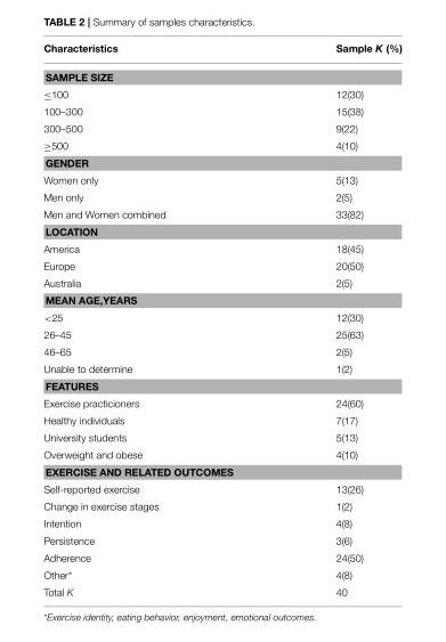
<table><thead><tr><td>Characteristics</td><td>Sample K (%)</td></tr></thead><tbody><tr><td colspan="2">SAMPLE SIZE</td></tr><tr><td>≤100</td><td>12(30)</td></tr><tr><td>100–300</td><td>15(38)</td></tr><tr><td>300–500</td><td>9(22)</td></tr><tr><td>≥500</td><td>4(10)</td></tr><tr><td colspan="2">GENDER</td></tr><tr><td>Women only</td><td>5(13)</td></tr><tr><td>Men only</td><td>2(5)</td></tr><tr><td>Men and Women combined</td><td>33(82)</td></tr><tr><td colspan="2">LOCATION</td></tr><tr><td>America</td><td>18(45)</td></tr><tr><td>Europe</td><td>20(50)</td></tr><tr><td>Australia</td><td>2(5)</td></tr><tr><td colspan="2">MEAN AGE,YEARS</td></tr><tr><td>&lt;25</td><td>12(30)</td></tr><tr><td>26–45</td><td>25(63)</td></tr><tr><td>46–65</td><td>2(5)</td></tr><tr><td>Unable to determine</td><td>1(2)</td></tr><tr><td colspan="2">FEATURES</td></tr><tr><td>Exercise practicioners</td><td>24(60)</td></tr><tr><td>Healthy individuals</td><td>7(17)</td></tr><tr><td>University students</td><td>5(13)</td></tr><tr><td>Overweight and obese</td><td>4(10)</td></tr><tr><td colspan="2">EXERCISE AND RELATED OUTCOMES</td></tr><tr><td>Self-reported exercise</td><td>13(26)</td></tr><tr><td>Change in exercise stages</td><td>1(2)</td></tr><tr><td>Intention</td><td>4(8)</td></tr><tr><td>Persistence</td><td>3(6)</td></tr><tr><td>Adherence</td><td>24(50)</td></tr><tr><td>Other*</td><td>4(8)</td></tr><tr><td>Total K</td><td>40</td></tr></tbody></table>